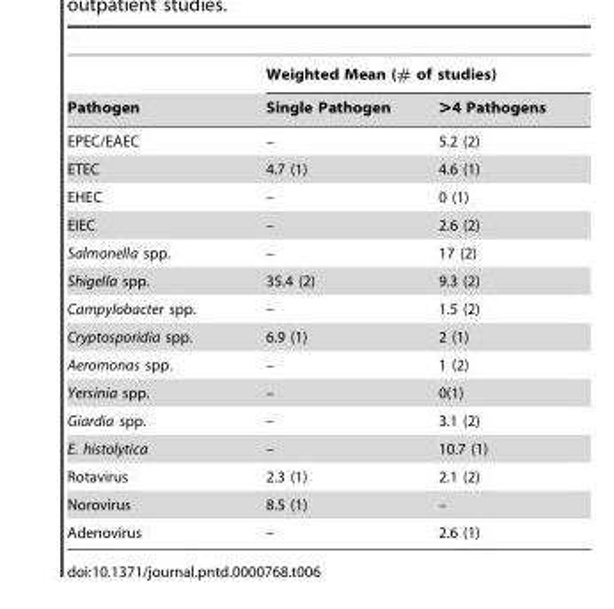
<table><thead><tr><td rowspan="2">Pathogen</td><td colspan="2">Weighted Mean (# of studies)</td></tr><tr><td>Single Pathogen</td><td>&gt;4 Pathogens</td></tr></thead><tbody><tr><td>EPEC/EAEC</td><td>–</td><td>5.2 (2)</td></tr><tr><td>ETEC</td><td>4.7 (1)</td><td>4.6 (1)</td></tr><tr><td>EHEC</td><td>–</td><td>0 (1)</td></tr><tr><td>EIEC</td><td>–</td><td>2.6 (2)</td></tr><tr><td>Salmonella spp.</td><td>–</td><td>17 (2)</td></tr><tr><td>Shigella spp.</td><td>35.4 (2)</td><td>9.3 (2)</td></tr><tr><td>Campylobacter spp.</td><td>–</td><td>1.5 (2)</td></tr><tr><td>Cryptosporidia spp.</td><td>6.9 (1)</td><td>2 (1)</td></tr><tr><td>Aeromonas spp.</td><td>–</td><td>1 (2)</td></tr><tr><td>Yersinia spp.</td><td>–</td><td>0(1)</td></tr><tr><td>Giardia spp.</td><td>–</td><td>3.1 (2)</td></tr><tr><td>E. histolytica</td><td>–</td><td>10.7 (1)</td></tr><tr><td>Rotavirus</td><td>2.3 (1)</td><td>2.1 (2)</td></tr><tr><td>Norovirus</td><td>8.5 (1)</td><td>–</td></tr><tr><td>Adenovirus</td><td>–</td><td>2.6 (1)</td></tr></tbody></table>